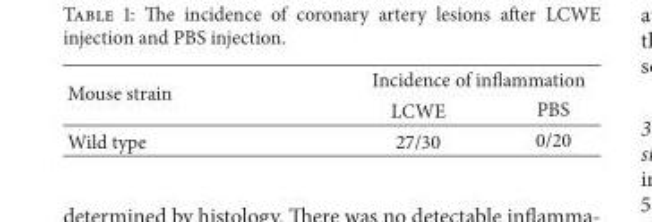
<table><thead><tr><td rowspan="2">Mouse strain</td><td colspan="2">Incidence of inflammation</td></tr><tr><td>LCWE</td><td>PBS</td></tr></thead><tbody><tr><td>Wild type</td><td>27/30</td><td>0/20</td></tr></tbody></table>